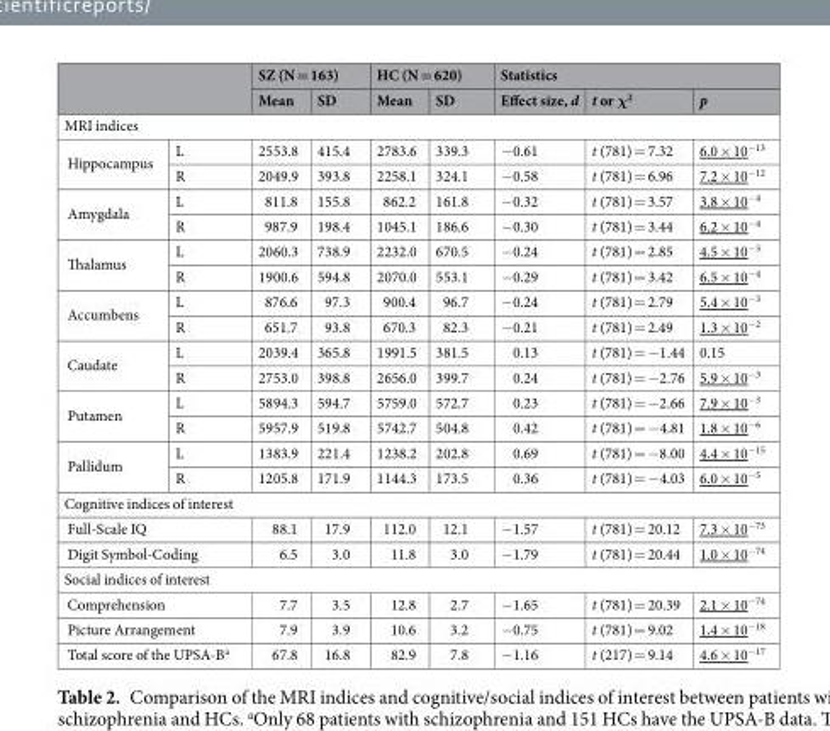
<table><thead><tr><td rowspan="2"></td><td rowspan="2"></td><td colspan="2">SZ (N = 163)</td><td colspan="2">HC (N = 620)</td><td colspan="3">Statistics</td></tr><tr><td>Mean</td><td>SD</td><td>Mean</td><td>SD</td><td>Effect size, d</td><td>t or χ<sup>2</sup></td><td>p</td></tr></thead><tbody><tr><td colspan="9">MRI indices</td></tr><tr><td rowspan="2">Hippocampus</td><td>L</td><td>2553.8</td><td>415.4</td><td>2783.6</td><td>339.3</td><td>−0.61</td><td>t (781) = 7.32</td><td>6.0 × 10<sup>−13</sup></td></tr><tr><td>R</td><td>2049.9</td><td>393.8</td><td>2258.1</td><td>324.1</td><td>−0.58</td><td>t (781) = 6.96</td><td>7.2 × 10<sup>−12</sup></td></tr><tr><td rowspan="2">Amygdala</td><td>L</td><td>811.8</td><td>155.8</td><td>862.2</td><td>161.8</td><td>−0.32</td><td>t (781) = 3.57</td><td>3.8 × 10<sup>−4</sup></td></tr><tr><td>R</td><td>987.9</td><td>198.4</td><td>1045.1</td><td>186.6</td><td>−0.30</td><td>t (781) = 3.44</td><td>6.2 × 10<sup>−4</sup></td></tr><tr><td rowspan="2">Thalamus</td><td>L</td><td>2060.3</td><td>738.9</td><td>2232.0</td><td>670.5</td><td>−0.24</td><td>t (781) = 2.85</td><td>4.5 × 10<sup>−3</sup></td></tr><tr><td>R</td><td>1900.6</td><td>594.8</td><td>2070.0</td><td>553.1</td><td>−0.29</td><td>t (781) = 3.42</td><td>6.5 × 10<sup>−4</sup></td></tr><tr><td rowspan="2">Accumbens</td><td>L</td><td>876.6</td><td>97.3</td><td>900.4</td><td>96.7</td><td>−0.24</td><td>t (781) = 2.79</td><td>5.4 × 10<sup>−3</sup></td></tr><tr><td>R</td><td>651.7</td><td>93.8</td><td>670.3</td><td>82.3</td><td>−0.21</td><td>t (781) = 2.49</td><td>1.3 × 10<sup>−2</sup></td></tr><tr><td rowspan="2">Caudate</td><td>L</td><td>2039.4</td><td>365.8</td><td>1991.5</td><td>381.5</td><td>0.13</td><td>t (781) = −1.44</td><td>0.15</td></tr><tr><td>R</td><td>2753.0</td><td>398.8</td><td>2656.0</td><td>399.7</td><td>0.24</td><td>t (781) = −2.76</td><td>5.9 × 10<sup>−3</sup></td></tr><tr><td rowspan="2">Putamen</td><td>L</td><td>5894.3</td><td>594.7</td><td>5759.0</td><td>572.7</td><td>0.23</td><td>t (781) = −2.66</td><td>7.9 × 10<sup>−3</sup></td></tr><tr><td>R</td><td>5957.9</td><td>519.8</td><td>5742.7</td><td>504.8</td><td>0.42</td><td>t (781) = −4.81</td><td>1.8 × 10<sup>−6</sup></td></tr><tr><td rowspan="2">Pallidum</td><td>L</td><td>1383.9</td><td>221.4</td><td>1238.2</td><td>202.8</td><td>0.69</td><td>t (781) = −8.00</td><td>4.4 × 10<sup>−15</sup></td></tr><tr><td>R</td><td>1205.8</td><td>171.9</td><td>1144.3</td><td>173.5</td><td>0.36</td><td>t (781) = −4.03</td><td>6.0 × 10<sup>−5</sup></td></tr><tr><td colspan="9">Cognitive indices of interest</td></tr><tr><td colspan="2">Full-Scale IQ</td><td>88.1</td><td>17.9</td><td>112.0</td><td>12.1</td><td>−1.57</td><td>t (781) = 20.12</td><td>7.3 × 10<sup>−73</sup></td></tr><tr><td colspan="2">Digit Symbol-Coding</td><td>6.5</td><td>3.0</td><td>11.8</td><td>3.0</td><td>−1.79</td><td>t (781) = 20.44</td><td>1.0 × 10<sup>−74</sup></td></tr><tr><td colspan="9">Social indices of interest</td></tr><tr><td colspan="2">Comprehension</td><td>7.7</td><td>3.5</td><td>12.8</td><td>2.7</td><td>−1.65</td><td>t (781) = 20.39</td><td>2.1 × 10<sup>−74</sup></td></tr><tr><td colspan="2">Picture Arrangement</td><td>7.9</td><td>3.9</td><td>10.6</td><td>3.2</td><td>−0.75</td><td>t (781) = 9.02</td><td>1.4 × 10<sup>−18</sup></td></tr><tr><td colspan="2">Total score of the UPSA-B<sup>a</sup></td><td>67.8</td><td>16.8</td><td>82.9</td><td>7.8</td><td>−1.16</td><td>t (217) = 9.14</td><td>4.6 × 10<sup>−17</sup></td></tr></tbody></table>